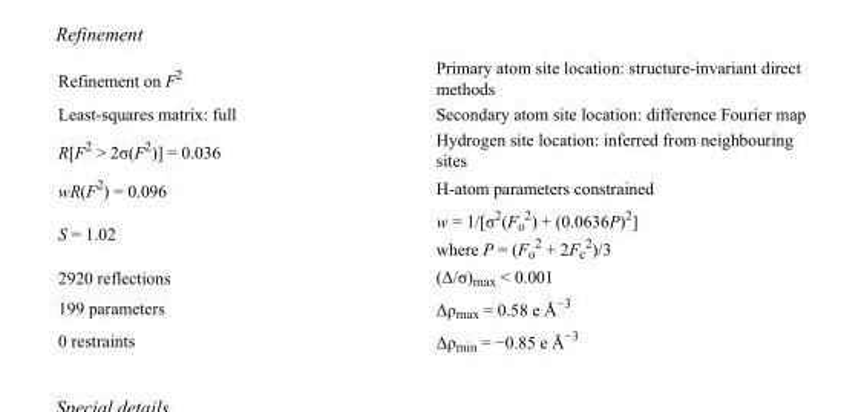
<table><tbody><tr><td>Refinement on F<sup>2</sup></td><td>Primary atom site location: structure-invariant direct methods</td></tr><tr><td>Least-squares matrix: full</td><td>Secondary atom site location: difference Fourier map</td></tr><tr><td>R[F<sup>2</sup> &gt; 2σ(F<sup>2</sup>)] = 0.036</td><td>Hydrogen site location: inferred from neighbouring sites</td></tr><tr><td>wR(F<sup>2</sup>) = 0.096</td><td>H-atom parameters constrained</td></tr><tr><td>S = 1.02</td><td>w = 1/[σ<sup>2</sup>(F<sub>o</sub> <sup>2</sup>) + (0.0636P)<sup>2</sup>] where P = (F<sub>o</sub> <sup>2</sup> + 2F<sub>c</sub> <sup>2</sup>)/3</td></tr><tr><td>2920 reflections</td><td>(Δ/σ)<sub>max</sub> &lt; 0.001</td></tr><tr><td>199 parameters</td><td>Δρ<sub>max</sub> = 0.58 e Å<sup>−3</sup></td></tr><tr><td>0 restraints</td><td>Δρ<sub>min</sub> = −0.85 e Å<sup>−3</sup></td></tr></tbody></table>